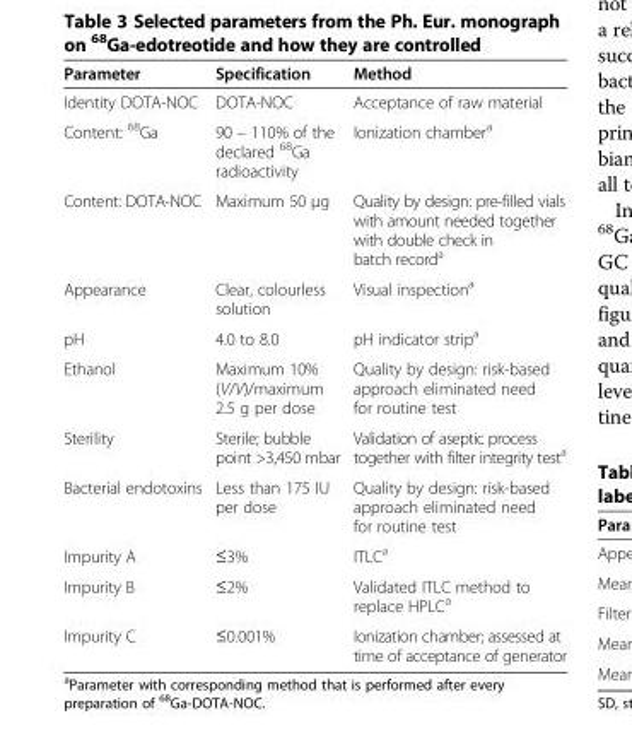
<table><thead><tr><td>Parameter</td><td>Specification</td><td>Method</td></tr></thead><tbody><tr><td>Identity DOTA-NOC</td><td>DOTA-NOC</td><td>Acceptance of raw material</td></tr><tr><td>Content: <sup>68</sup>Ga</td><td>90 – 110% of the declared <sup>68</sup>Ga radioactivity</td><td>Ionization chamber<sup>a</sup></td></tr><tr><td>Content: DOTA-NOC</td><td>Maximum 50 μg</td><td>Quality by design: pre-filled vials with amount needed together with double check in batch record<sup>a</sup></td></tr><tr><td>Appearance</td><td>Clear, colourless solution</td><td>Visual inspection<sup>a</sup></td></tr><tr><td>pH</td><td>4.0 to 8.0</td><td>pH indicator strip<sup>a</sup></td></tr><tr><td>Ethanol</td><td>Maximum 10% (V/V)/maximum 2.5 g per dose</td><td>Quality by design: risk-based approach eliminated need for routine test</td></tr><tr><td>Sterility</td><td>Sterile; bubble point &gt;3,450 mbar</td><td>Validation of aseptic process together with filter integrity test<sup>a</sup></td></tr><tr><td>Bacterial endotoxins</td><td>Less than 175 IU per dose</td><td>Quality by design: risk-based approach eliminated need for routine test</td></tr><tr><td>Impurity A</td><td>≤3%</td><td>ITLC<sup>a</sup></td></tr><tr><td>Impurity B</td><td>≤2%</td><td>Validated ITLC method to replace HPLC<sup>a</sup></td></tr><tr><td>Impurity C</td><td>≤0.001%</td><td>Ionization chamber; assessed at time of acceptance of generator</td></tr></tbody></table>